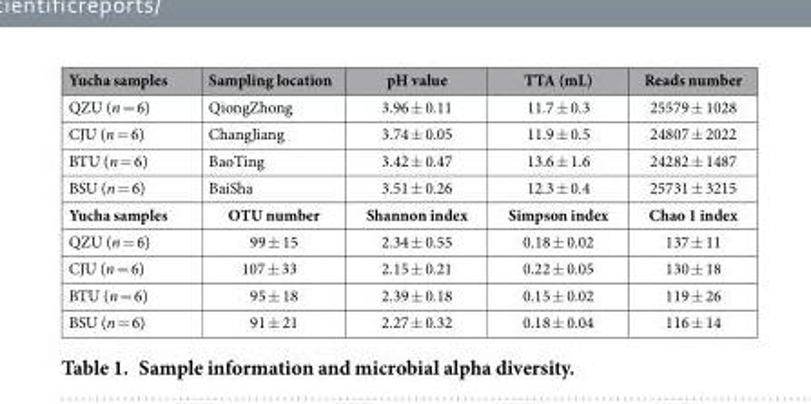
<table><thead><tr><td>Yucha samples</td><td>Sampling location</td><td>pH value</td><td>TTA (mL)</td><td>Reads number</td></tr></thead><tbody><tr><td>QZU (n = 6)</td><td>QiongZhong</td><td>3.96 ± 0.11</td><td>11.7 ± 0.3</td><td>25579 ± 1028</td></tr><tr><td>CJU (n = 6)</td><td>ChangJiang</td><td>3.74 ± 0.05</td><td>11.9 ± 0.5</td><td>24807 ± 2022</td></tr><tr><td>BTU (n = 6)</td><td>BaoTing</td><td>3.42 ± 0.47</td><td>13.6 ± 1.6</td><td>24282 ± 1487</td></tr><tr><td>BSU (n = 6)</td><td>BaiSha</td><td>3.51 ± 0.26</td><td>12.3 ± 0.4</td><td>25731 ± 3215</td></tr><tr><td>Yucha samples</td><td>OTU number</td><td>Shannon index</td><td>Simpson index</td><td>Chao 1 index</td></tr><tr><td>QZU (n = 6)</td><td>99 ± 15</td><td>2.34 ± 0.55</td><td>0.18 ± 0.02</td><td>137 ± 11</td></tr><tr><td>CJU (n = 6)</td><td>107 ± 33</td><td>2.15 ± 0.21</td><td>0.22 ± 0.05</td><td>130 ± 18</td></tr><tr><td>BTU (n = 6)</td><td>95 ± 18</td><td>2.39 ± 0.18</td><td>0.15 ± 0.02</td><td>119 ± 26</td></tr><tr><td>BSU (n = 6)</td><td>91 ± 21</td><td>2.27 ± 0.32</td><td>0.18 ± 0.04</td><td>116 ± 14</td></tr></tbody></table>